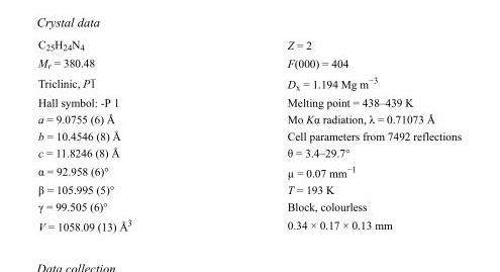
<table><tbody><tr><td>C<sub>25</sub>H<sub>24</sub>N<sub>4</sub></td><td>Z = 2</td></tr><tr><td>M<sub>r</sub> = 380.48</td><td>F(000) = 404</td></tr><tr><td>Triclinic, P1</td><td>D<sub>x</sub> = 1.194 Mg m<sup>−3</sup></td></tr><tr><td>Hall symbol: -P 1</td><td>Melting point = 438–439 K</td></tr><tr><td>a = 9.0755 (6) Å</td><td>Mo Kα radiation, λ = 0.71073 Å</td></tr><tr><td>b = 10.4546 (8) Å</td><td>Cell parameters from 7492 reflections</td></tr><tr><td>c = 11.8246 (8) Å</td><td>θ = 3.4–29.7°</td></tr><tr><td>α = 92.958 (6)°</td><td>µ = 0.07 mm<sup>−1</sup></td></tr><tr><td>β = 105.995 (5)°</td><td>T = 193 K</td></tr><tr><td>γ = 99.505 (6)°</td><td>Block, colourless</td></tr><tr><td>V = 1058.09 (13) Å<sup>3</sup></td><td>0.34 × 0.17 × 0.13 mm</td></tr></tbody></table>